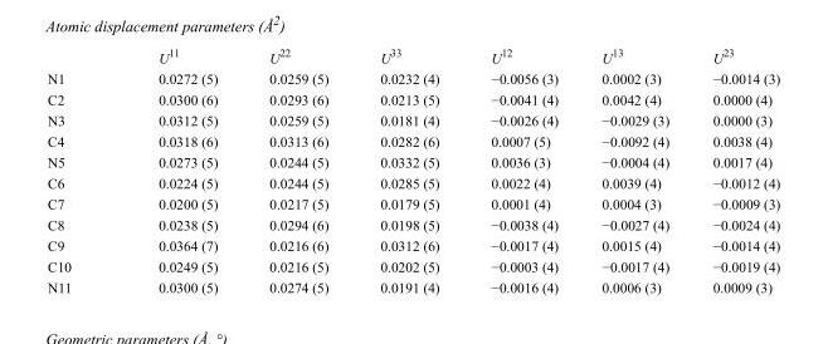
<table><thead><tr><td></td><td>U<sup>11</sup></td><td>U<sup>22</sup></td><td>U<sup>33</sup></td><td>U<sup>12</sup></td><td>U<sup>13</sup></td><td>U<sup>23</sup></td></tr></thead><tbody><tr><td>N1</td><td>0.0272 (5)</td><td>0.0259 (5)</td><td>0.0232 (4)</td><td>−0.0056 (3)</td><td>0.0002 (3)</td><td>−0.0014 (3)</td></tr><tr><td>C2</td><td>0.0300 (6)</td><td>0.0293 (6)</td><td>0.0213 (5)</td><td>−0.0041 (4)</td><td>0.0042 (4)</td><td>0.0000 (4)</td></tr><tr><td>N3</td><td>0.0312 (5)</td><td>0.0259 (5)</td><td>0.0181 (4)</td><td>−0.0026 (4)</td><td>−0.0029 (3)</td><td>0.0000 (3)</td></tr><tr><td>C4</td><td>0.0318 (6)</td><td>0.0313 (6)</td><td>0.0282 (6)</td><td>0.0007 (5)</td><td>−0.0092 (4)</td><td>0.0038 (4)</td></tr><tr><td>N5</td><td>0.0273 (5)</td><td>0.0244 (5)</td><td>0.0332 (5)</td><td>0.0036 (3)</td><td>−0.0004 (4)</td><td>0.0017 (4)</td></tr><tr><td>C6</td><td>0.0224 (5)</td><td>0.0244 (5)</td><td>0.0285 (5)</td><td>0.0022 (4)</td><td>0.0039 (4)</td><td>−0.0012 (4)</td></tr><tr><td>C7</td><td>0.0200 (5)</td><td>0.0217 (5)</td><td>0.0179 (5)</td><td>0.0001 (4)</td><td>0.0004 (3)</td><td>−0.0009 (3)</td></tr><tr><td>C8</td><td>0.0238 (5)</td><td>0.0294 (6)</td><td>0.0198 (5)</td><td>−0.0038 (4)</td><td>−0.0027 (4)</td><td>−0.0024 (4)</td></tr><tr><td>C9</td><td>0.0364 (7)</td><td>0.0216 (6)</td><td>0.0312 (6)</td><td>−0.0017 (4)</td><td>0.0015 (4)</td><td>−0.0014 (4)</td></tr><tr><td>C10</td><td>0.0249 (5)</td><td>0.0216 (5)</td><td>0.0202 (5)</td><td>−0.0003 (4)</td><td>−0.0017 (4)</td><td>−0.0019 (4)</td></tr><tr><td>N11</td><td>0.0300 (5)</td><td>0.0274 (5)</td><td>0.0191 (4)</td><td>−0.0016 (4)</td><td>0.0006 (3)</td><td>0.0009 (3)</td></tr></tbody></table>